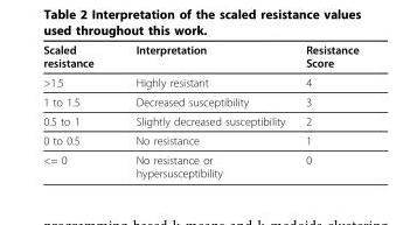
<table><thead><tr><td>Scaled resistance</td><td>Interpretation</td><td>Resistance Score</td></tr></thead><tbody><tr><td>&gt;1.5</td><td>Highly resistant</td><td>4</td></tr><tr><td>1 to 1.5</td><td>Decreased susceptibility</td><td>3</td></tr><tr><td>0.5 to 1</td><td>Slightly decreased susceptibility</td><td>2</td></tr><tr><td>0 to 0.5</td><td>No resistance</td><td>1</td></tr><tr><td>&lt;= 0</td><td>No resistance or hypersusceptibility</td><td>0</td></tr></tbody></table>